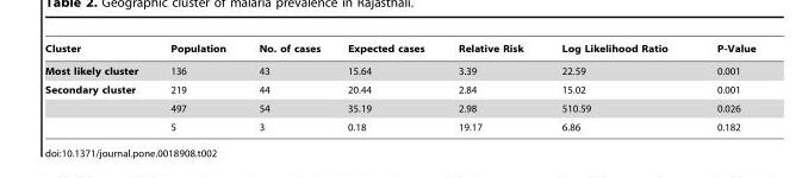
<table><thead><tr><td>Cluster</td><td>Population</td><td>No. of cases</td><td>Expected cases</td><td>Relative Risk</td><td>Log Likelihood Ratio</td><td>P-Value</td></tr></thead><tbody><tr><td>Most likely cluster</td><td>136</td><td>43</td><td>15.64</td><td>3.39</td><td>22.59</td><td>0.001</td></tr><tr><td rowspan="3">Secondary cluster</td><td>219</td><td>44</td><td>20.44</td><td>2.84</td><td>15.02</td><td>0.001</td></tr><tr><td>497</td><td>54</td><td>35.19</td><td>2.98</td><td>510.59</td><td>0.026</td></tr><tr><td>5</td><td>3</td><td>0.18</td><td>19.17</td><td>6.86</td><td>0.182</td></tr></tbody></table>